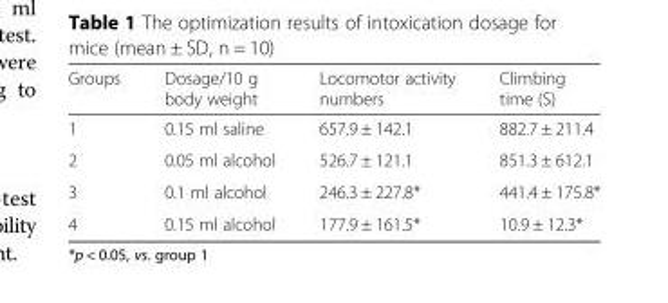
<table><thead><tr><td>Groups</td><td>Dosage/10 g body weight</td><td>Locomotor activity numbers</td><td>Climbing time (S)</td></tr></thead><tbody><tr><td>1</td><td>0.15 ml saline</td><td>657.9 ± 142.1</td><td>882.7 ± 211.4</td></tr><tr><td>2</td><td>0.05 ml alcohol</td><td>526.7 ± 121.1</td><td>851.3 ± 612.1</td></tr><tr><td>3</td><td>0.1 ml alcohol</td><td>246.3 ± 227.8*</td><td>441.4 ± 175.8*</td></tr><tr><td>4</td><td>0.15 ml alcohol</td><td>177.9 ± 161.5*</td><td>10.9 ± 12.3*</td></tr></tbody></table>